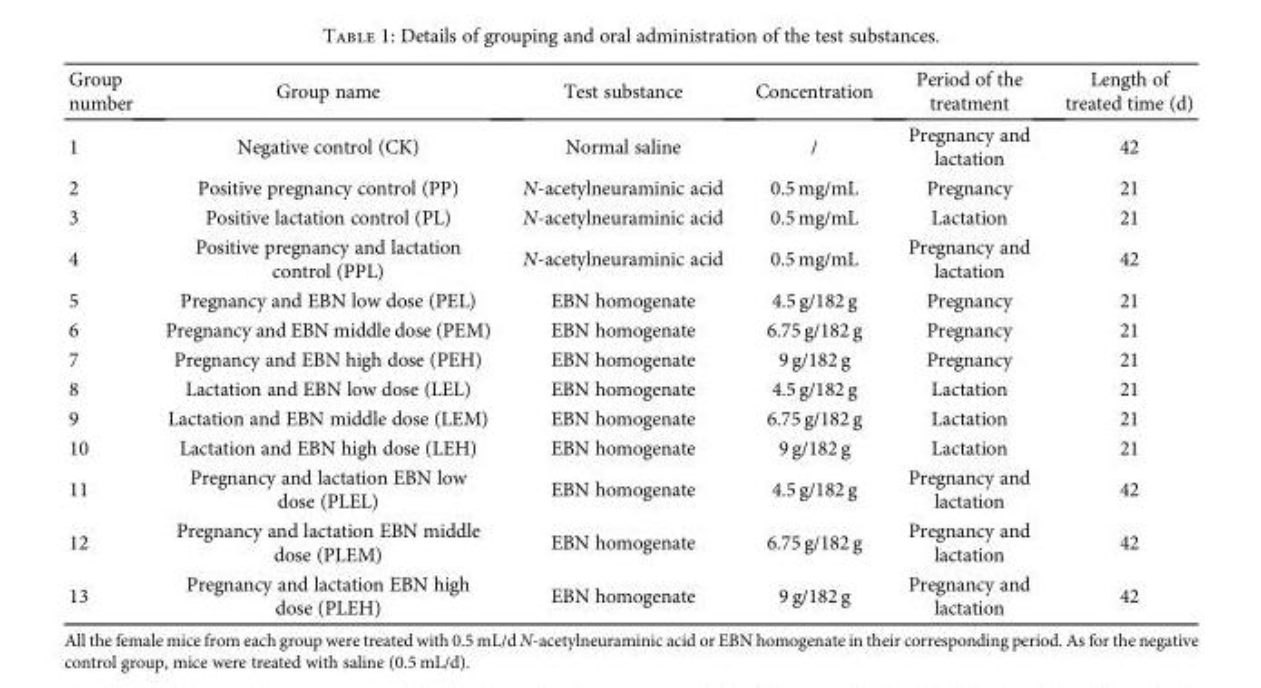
<table><thead><tr><td>Group number</td><td>Group name</td><td>Test substance</td><td>Concentration</td><td>Period of the treatment</td><td>Length of treated time (d)</td></tr></thead><tbody><tr><td>1</td><td>Negative control (CK)</td><td>Normal saline</td><td>/</td><td>Pregnancy and lactation</td><td>42</td></tr><tr><td>2</td><td>Positive pregnancy control (PP)</td><td>N-acetylneuraminic acid</td><td>0.5 mg/mL</td><td>Pregnancy</td><td>21</td></tr><tr><td>3</td><td>Positive lactation control (PL)</td><td>N-acetylneuraminic acid</td><td>0.5 mg/mL</td><td>Lactation</td><td>21</td></tr><tr><td>4</td><td>Positive pregnancy and lactation control (PPL)</td><td>N-acetylneuraminic acid</td><td>0.5 mg/mL</td><td>Pregnancy and lactation</td><td>42</td></tr><tr><td>5</td><td>Pregnancy and EBN low dose (PEL)</td><td>EBN homogenate</td><td>4.5 g/182 g</td><td>Pregnancy</td><td>21</td></tr><tr><td>6</td><td>Pregnancy and EBN middle dose (PEM)</td><td>EBN homogenate</td><td>6.75 g/182 g</td><td>Pregnancy</td><td>21</td></tr><tr><td>7</td><td>Pregnancy and EBN high dose (PEH)</td><td>EBN homogenate</td><td>9 g/182 g</td><td>Pregnancy</td><td>21</td></tr><tr><td>8</td><td>Lactation and EBN low dose (LEL)</td><td>EBN homogenate</td><td>4.5 g/182 g</td><td>Lactation</td><td>21</td></tr><tr><td>9</td><td>Lactation and EBN middle dose (LEM)</td><td>EBN homogenate</td><td>6.75 g/182 g</td><td>Lactation</td><td>21</td></tr><tr><td>10</td><td>Lactation and EBN high dose (LEH)</td><td>EBN homogenate</td><td>9 g/182 g</td><td>Lactation</td><td>21</td></tr><tr><td>11</td><td>Pregnancy and lactation EBN low dose (PLEL)</td><td>EBN homogenate</td><td>4.5 g/182 g</td><td>Pregnancy and lactation</td><td>42</td></tr><tr><td>12</td><td>Pregnancy and lactation EBN middle dose (PLEM)</td><td>EBN homogenate</td><td>6.75 g/182 g</td><td>Pregnancy and lactation</td><td>42</td></tr><tr><td>13</td><td>Pregnancy and lactation EBN high dose (PLEH)</td><td>EBN homogenate</td><td>9 g/182 g</td><td>Pregnancy and lactation</td><td>42</td></tr></tbody></table>